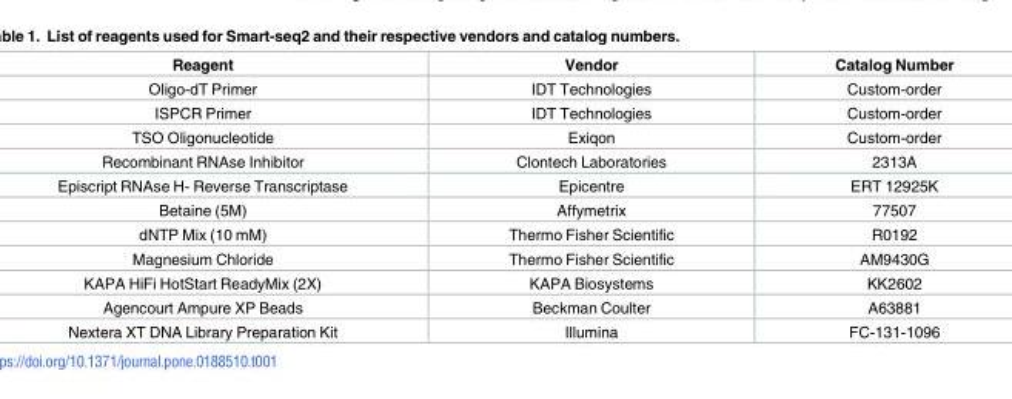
<table><thead><tr><td>Reagent</td><td>Vendor</td><td>Catalog Number</td></tr></thead><tbody><tr><td>Oligo-dT Primer</td><td>IDT Technologies</td><td>Custom-order</td></tr><tr><td>ISPCR Primer</td><td>IDT Technologies</td><td>Custom-order</td></tr><tr><td>TSO Oligonucleotide</td><td>Exiqon</td><td>Custom-order</td></tr><tr><td>Recombinant RNAse Inhibitor</td><td>Clontech Laboratories</td><td>2313A</td></tr><tr><td>Episcript RNAse H- Reverse Transcriptase</td><td>Epicentre</td><td>ERT 12925K</td></tr><tr><td>Betaine (5M)</td><td>Affymetrix</td><td>77507</td></tr><tr><td>dNTP Mix (10 mM)</td><td>Thermo Fisher Scientific</td><td>R0192</td></tr><tr><td>Magnesium Chloride</td><td>Thermo Fisher Scientific</td><td>AM9430G</td></tr><tr><td>KAPA HiFi HotStart ReadyMix (2X)</td><td>KAPA Biosystems</td><td>KK2602</td></tr><tr><td>Agencourt Ampure XP Beads</td><td>Beckman Coulter</td><td>A63881</td></tr><tr><td>Nextera XT DNA Library Preparation Kit</td><td>Illumina</td><td>FC-131-1096</td></tr></tbody></table>